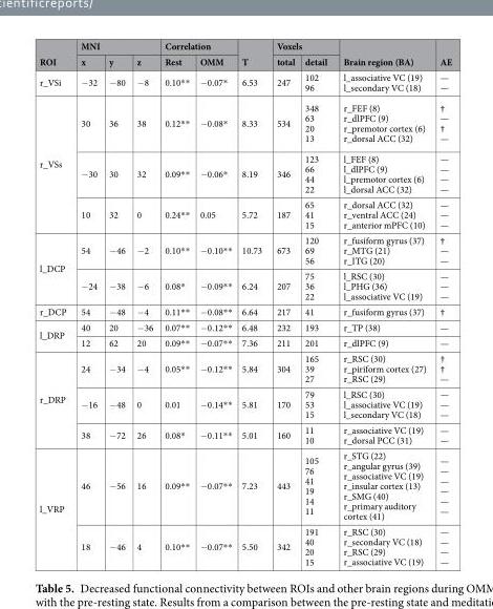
<table><thead><tr><td rowspan="2">ROI</td><td colspan="3">MNI</td><td colspan="2">Correlation</td><td rowspan="2">T</td><td colspan="2">Voxels</td><td rowspan="2">Brain region (BA)</td><td rowspan="2">AE</td></tr><tr><td>x</td><td>y</td><td>z</td><td>Rest</td><td>OMM</td><td>total</td><td>detail</td></tr></thead><tbody><tr><td>r_VSi</td><td>−32</td><td>−80</td><td>−8</td><td>0.10**</td><td>−0.07*</td><td>6.53</td><td>247</td><td>102 96</td><td>l_associative VC (19) l_secondary VC (18)</td><td>— —</td></tr><tr><td rowspan="3">r_VSs</td><td>30</td><td>36</td><td>38</td><td>0.12**</td><td>−0.08*</td><td>8.33</td><td>534</td><td>348 63 20 13</td><td>r_FEF (8) r_dlPFC (9) r_premotor cortex (6) r_dorsal ACC (32)</td><td>† — † —</td></tr><tr><td>−30</td><td>30</td><td>32</td><td>0.09**</td><td>−0.06*</td><td>8.19</td><td>346</td><td>123 66 44 22</td><td>l_FEF (8) l_dlPFC (9) l_premotor cortex (6) l_dorsal ACC (32)</td><td>— — — —</td></tr><tr><td>10</td><td>32</td><td>0</td><td>0.24**</td><td>0.05</td><td>5.72</td><td>187</td><td>65 41 15</td><td>r_dorsal ACC (32) r_ventral ACC (24) r_anterior mPFC (10)</td><td>— — —</td></tr><tr><td rowspan="2">l_DCP</td><td>54</td><td>−46</td><td>−2</td><td>0.10**</td><td>−0.10**</td><td>10.73</td><td>673</td><td>120 69 56</td><td>r_fusiform gyrus (37) r_MTG (21) r_ITG (20)</td><td>† — —</td></tr><tr><td>−24</td><td>−38</td><td>−6</td><td>0.08*</td><td>−0.09**</td><td>6.24</td><td>207</td><td>75 36 22</td><td>l_RSC (30) l_PHG (36) l_associative VC (19)</td><td>— — —</td></tr><tr><td>r_DCP</td><td>54</td><td>−48</td><td>−4</td><td>0.11**</td><td>−0.08**</td><td>6.64</td><td>217</td><td>41</td><td>r_fusiform gyrus (37)</td><td>†</td></tr><tr><td rowspan="2">l_DRP</td><td>40</td><td>20</td><td>−36</td><td>0.07**</td><td>−0.12**</td><td>6.48</td><td>232</td><td>193</td><td>r_TP (38)</td><td>—</td></tr><tr><td>12</td><td>62</td><td>20</td><td>0.09**</td><td>−0.07**</td><td>7.36</td><td>211</td><td>201</td><td>r_dlPFC (9)</td><td>—</td></tr><tr><td rowspan="3">r_DRP</td><td>24</td><td>−34</td><td>−4</td><td>0.05**</td><td>−0.12**</td><td>5.84</td><td>304</td><td>165 39 27</td><td>r_RSC (30) r_piriform cortex (27) r_RSC (29)</td><td>† † —</td></tr><tr><td>−16</td><td>−48</td><td>0</td><td>0.01</td><td>−0.14**</td><td>5.81</td><td>170</td><td>79 53 15</td><td>l_RSC (30) l_associative VC (19) l_secondary VC (18)</td><td>— — —</td></tr><tr><td>38</td><td>−72</td><td>26</td><td>0.08*</td><td>−0.11**</td><td>5.01</td><td>160</td><td>11 10</td><td>r_associative VC (19) r_dorsal PCC (31)</td><td>— —</td></tr><tr><td rowspan="2">l_VRP</td><td>46</td><td>−56</td><td>16</td><td>0.09**</td><td>−0.07**</td><td>7.23</td><td>443</td><td>105 76 41 19 14 11</td><td>r_STG (22) r_angular gyrus (39) r_associative VC (19) r_insular cortex (13) r_SMG (40) r_primary auditory cortex (41)</td><td>— — — — — —</td></tr><tr><td>18</td><td>−46</td><td>4</td><td>0.10**</td><td>−0.07**</td><td>5.50</td><td>342</td><td>191 40 20 15</td><td>r_RSC (30) r_secondary VC (18) r_RSC (29) r_associative VC (19)</td><td>— — — —</td></tr></tbody></table>